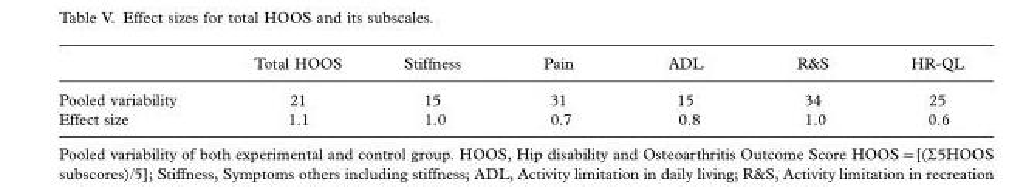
<table><thead><tr><td></td><td>Total HOOS</td><td>Stiffness</td><td>Pain</td><td>ADL</td><td>R&amp;S</td><td>HR-QL</td></tr></thead><tbody><tr><td>Pooled variability</td><td>21</td><td>15</td><td>31</td><td>15</td><td>34</td><td>25</td></tr><tr><td>Effect size</td><td>1.1</td><td>1.0</td><td>0.7</td><td>0.8</td><td>1.0</td><td>0.6</td></tr></tbody></table>